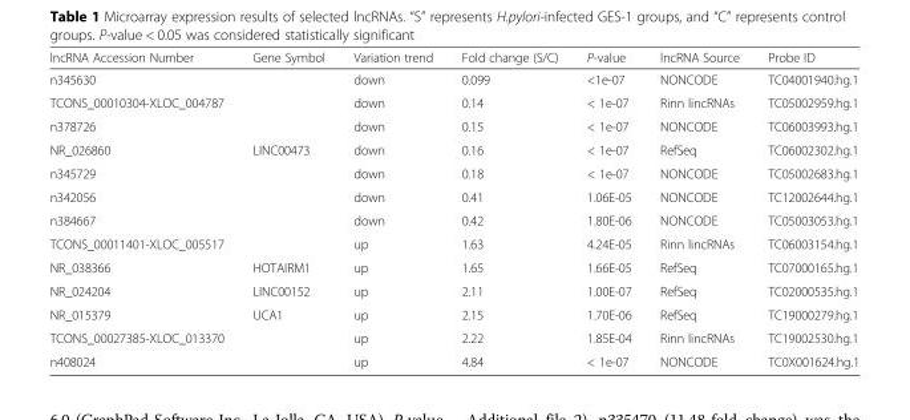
<table><thead><tr><td>lncRNA Accession Number</td><td>Gene Symbol</td><td>Variation trend</td><td>Fold change (S/C)</td><td>P-value</td><td>lncRNA Source</td><td>Probe ID</td></tr></thead><tbody><tr><td>n345630</td><td></td><td>down</td><td>0.099</td><td>&lt;1e-07</td><td>NONCODE</td><td>TC04001940.hg.1</td></tr><tr><td>TCONS_00010304-XLOC_004787</td><td></td><td>down</td><td>0.14</td><td>&lt; 1e-07</td><td>Rinn lincRNAs</td><td>TC05002959.hg.1</td></tr><tr><td>n378726</td><td></td><td>down</td><td>0.15</td><td>&lt; 1e-07</td><td>NONCODE</td><td>TC06003993.hg.1</td></tr><tr><td>NR_026860</td><td>LINC00473</td><td>down</td><td>0.16</td><td>&lt; 1e-07</td><td>RefSeq</td><td>TC06002302.hg.1</td></tr><tr><td>n345729</td><td></td><td>down</td><td>0.18</td><td>&lt; 1e-07</td><td>NONCODE</td><td>TC05002683.hg.1</td></tr><tr><td>n342056</td><td></td><td>down</td><td>0.41</td><td>1.06E-05</td><td>NONCODE</td><td>TC12002644.hg.1</td></tr><tr><td>n384667</td><td></td><td>down</td><td>0.42</td><td>1.80E-06</td><td>NONCODE</td><td>TC05003053.hg.1</td></tr><tr><td>TCONS_00011401-XLOC_005517</td><td></td><td>up</td><td>1.63</td><td>4.24E-05</td><td>Rinn lincRNAs</td><td>TC06003154.hg.1</td></tr><tr><td>NR_038366</td><td>HOTAIRM1</td><td>up</td><td>1.65</td><td>1.66E-05</td><td>RefSeq</td><td>TC07000165.hg.1</td></tr><tr><td>NR_024204</td><td>LINC00152</td><td>up</td><td>2.11</td><td>1.00E-07</td><td>RefSeq</td><td>TC02000535.hg.1</td></tr><tr><td>NR_015379</td><td>UCA1</td><td>up</td><td>2.15</td><td>1.70E-06</td><td>RefSeq</td><td>TC19000279.hg.1</td></tr><tr><td>TCONS_00027385-XLOC_013370</td><td></td><td>up</td><td>2.22</td><td>1.85E-04</td><td>Rinn lincRNAs</td><td>TC19002530.hg.1</td></tr><tr><td>n408024</td><td></td><td>up</td><td>4.84</td><td>&lt; 1e-07</td><td>NONCODE</td><td>TC0X001624.hg.1</td></tr></tbody></table>